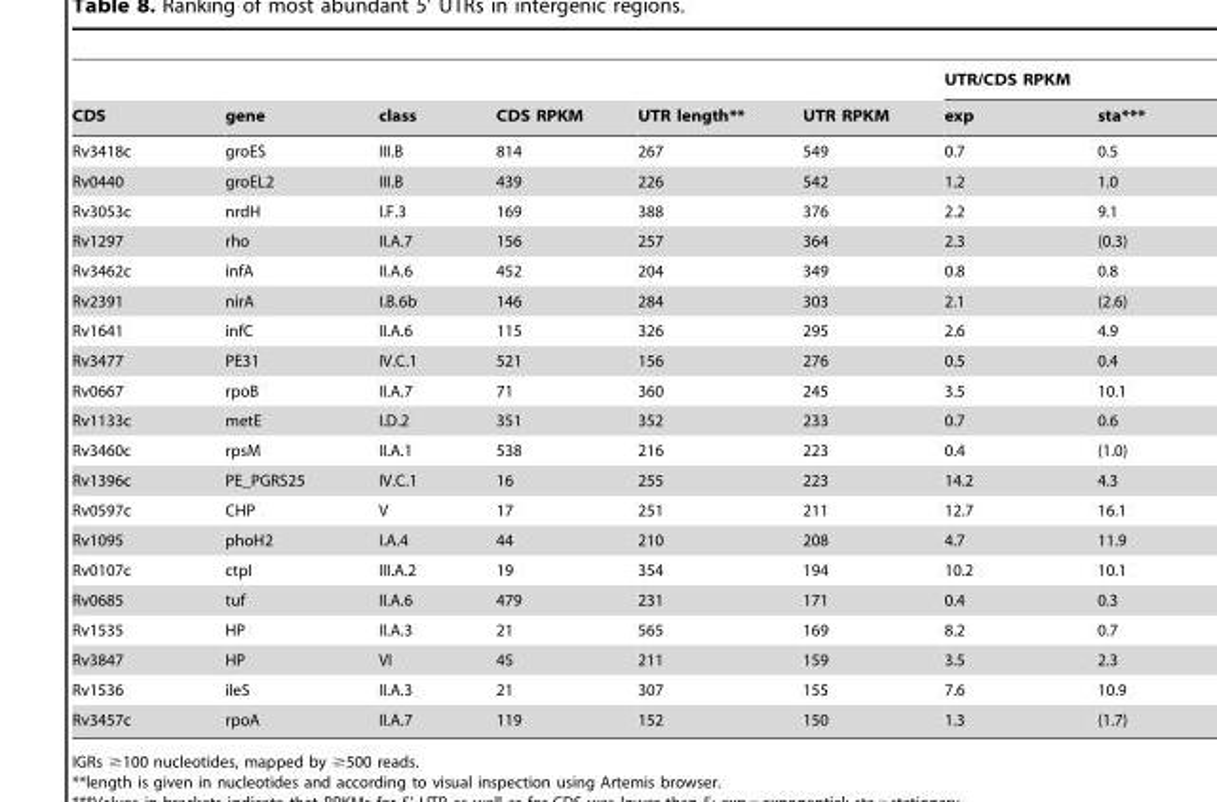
<table><thead><tr><td rowspan="2">CDS</td><td rowspan="2">gene</td><td rowspan="2">class</td><td rowspan="2">CDS RPKM</td><td rowspan="2">UTR length**</td><td rowspan="2">UTR RPKM</td><td colspan="2">UTR/CDS RPKM</td></tr><tr><td>exp</td><td>sta***</td></tr></thead><tbody><tr><td>Rv3418c</td><td>groES</td><td>III.B</td><td>814</td><td>267</td><td>549</td><td>0.7</td><td>0.5</td></tr><tr><td>Rv0440</td><td>groEL2</td><td>III.B</td><td>439</td><td>226</td><td>542</td><td>1.2</td><td>1.0</td></tr><tr><td>Rv3053c</td><td>nrdH</td><td>I.F.3</td><td>169</td><td>388</td><td>376</td><td>2.2</td><td>9.1</td></tr><tr><td>Rv1297</td><td>rho</td><td>II.A.7</td><td>156</td><td>257</td><td>364</td><td>2.3</td><td>(0.3)</td></tr><tr><td>Rv3462c</td><td>infA</td><td>II.A.6</td><td>452</td><td>204</td><td>349</td><td>0.8</td><td>0.8</td></tr><tr><td>Rv2391</td><td>nirA</td><td>I.B.6b</td><td>146</td><td>284</td><td>303</td><td>2.1</td><td>(2.6)</td></tr><tr><td>Rv1641</td><td>infC</td><td>II.A.6</td><td>115</td><td>326</td><td>295</td><td>2.6</td><td>4.9</td></tr><tr><td>Rv3477</td><td>PE31</td><td>IV.C.1</td><td>521</td><td>156</td><td>276</td><td>0.5</td><td>0.4</td></tr><tr><td>Rv0667</td><td>rpoB</td><td>II.A.7</td><td>71</td><td>360</td><td>245</td><td>3.5</td><td>10.1</td></tr><tr><td>Rv1133c</td><td>metE</td><td>I.D.2</td><td>351</td><td>352</td><td>233</td><td>0.7</td><td>0.6</td></tr><tr><td>Rv3460c</td><td>rpsM</td><td>II.A.1</td><td>538</td><td>216</td><td>223</td><td>0.4</td><td>(1.0)</td></tr><tr><td>Rv1396c</td><td>PE_PGRS25</td><td>IV.C.1</td><td>16</td><td>255</td><td>223</td><td>14.2</td><td>4.3</td></tr><tr><td>Rv0597c</td><td>CHP</td><td>V</td><td>17</td><td>251</td><td>211</td><td>12.7</td><td>16.1</td></tr><tr><td>Rv1095</td><td>phoH2</td><td>I.A.4</td><td>44</td><td>210</td><td>208</td><td>4.7</td><td>11.9</td></tr><tr><td>Rv0107c</td><td>ctpI</td><td>III.A.2</td><td>19</td><td>354</td><td>194</td><td>10.2</td><td>10.1</td></tr><tr><td>Rv0685</td><td>tuf</td><td>II.A.6</td><td>479</td><td>231</td><td>171</td><td>0.4</td><td>0.3</td></tr><tr><td>Rv1535</td><td>HP</td><td>II.A.3</td><td>21</td><td>565</td><td>169</td><td>8.2</td><td>0.7</td></tr><tr><td>Rv3847</td><td>HP</td><td>VI</td><td>45</td><td>211</td><td>159</td><td>3.5</td><td>2.3</td></tr><tr><td>Rv1536</td><td>ileS</td><td>II.A.3</td><td>21</td><td>307</td><td>155</td><td>7.6</td><td>10.9</td></tr><tr><td>Rv3457c</td><td>rpoA</td><td>II.A.7</td><td>119</td><td>152</td><td>150</td><td>1.3</td><td>(1.7)</td></tr></tbody></table>